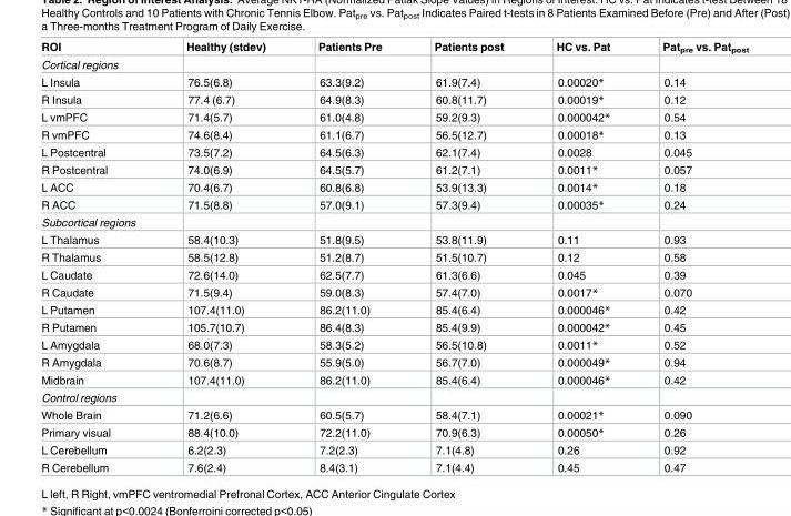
<table><thead><tr><td>ROI</td><td>Healthy (stdev)</td><td>Patients Pre</td><td>Patients post</td><td>HC vs. Pat</td><td>Pat<sub>pre</sub> vs. Pat<sub>post</sub></td></tr></thead><tbody><tr><td colspan="6">Cortical regions</td></tr><tr><td>L Insula</td><td>76.5(6.8)</td><td>63.3(9.2)</td><td>61.9(7.4)</td><td>0.00020*</td><td>0.14</td></tr><tr><td>R Insula</td><td>77.4 (6.7)</td><td>64.9(8.3)</td><td>60.8(11.7)</td><td>0.00019*</td><td>0.12</td></tr><tr><td>L vmPFC</td><td>71.4(5.7)</td><td>61.0(4.8)</td><td>59.2(9.3)</td><td>0.000042*</td><td>0.54</td></tr><tr><td>R vmPFC</td><td>74.6(8.4)</td><td>61.1(6.7)</td><td>56.5(12.7)</td><td>0.00018*</td><td>0.13</td></tr><tr><td>L Postcentral</td><td>73.5(7.2)</td><td>64.5(6.3)</td><td>62.1(7.4)</td><td>0.0028</td><td>0.045</td></tr><tr><td>R Postcentral</td><td>74.0(6.9)</td><td>64.5(5.7)</td><td>61.2(7.1)</td><td>0.0011*</td><td>0.057</td></tr><tr><td>L ACC</td><td>70.4(6.7)</td><td>60.8(6.8)</td><td>53.9(13.3)</td><td>0.0014*</td><td>0.18</td></tr><tr><td>R ACC</td><td>71.5(8.8)</td><td>57.0(9.1)</td><td>57.3(9.4)</td><td>0.00035*</td><td>0.24</td></tr><tr><td colspan="6">Subcortical regions</td></tr><tr><td>L Thalamus</td><td>58.4(10.3)</td><td>51.8(9.5)</td><td>53.8(11.9)</td><td>0.11</td><td>0.93</td></tr><tr><td>R Thalamus</td><td>58.5(12.8)</td><td>51.2(8.7)</td><td>51.5(10.7)</td><td>0.12</td><td>0.58</td></tr><tr><td>L Caudate</td><td>72.6(14.0)</td><td>62.5(7.7)</td><td>61.3(6.6)</td><td>0.045</td><td>0.39</td></tr><tr><td>R Caudate</td><td>71.5(9.4)</td><td>59.0(8.3)</td><td>57.4(7.0)</td><td>0.0017*</td><td>0.070</td></tr><tr><td>L Putamen</td><td>107.4(11.0)</td><td>86.2(11.0)</td><td>85.4(6.4)</td><td>0.000046*</td><td>0.42</td></tr><tr><td>R Putamen</td><td>105.7(10.7)</td><td>86.4(8.3)</td><td>85.4(9.9)</td><td>0.000042*</td><td>0.45</td></tr><tr><td>L Amygdala</td><td>68.0(7.3)</td><td>58.3(5.2)</td><td>56.5(10.8)</td><td>0.0011*</td><td>0.52</td></tr><tr><td>R Amygdala</td><td>70.6(8.7)</td><td>55.9(5.0)</td><td>56.7(7.0)</td><td>0.000049*</td><td>0.94</td></tr><tr><td>Midbrain</td><td>107.4(11.0)</td><td>86.2(11.0)</td><td>85.4(6.4)</td><td>0.000046*</td><td>0.42</td></tr><tr><td colspan="6">Control regions</td></tr><tr><td>Whole Brain</td><td>71.2(6.6)</td><td>60.5(5.7)</td><td>58.4(7.1)</td><td>0.00021*</td><td>0.090</td></tr><tr><td>Primary visual</td><td>88.4(10.0)</td><td>72.2(11.0)</td><td>70.9(6.3)</td><td>0.00050*</td><td>0.26</td></tr><tr><td>L Cerebellum</td><td>6.2(2.3)</td><td>7.2(2.3)</td><td>7.1(4.8)</td><td>0.26</td><td>0.92</td></tr><tr><td>R Cerebellum</td><td>7.6(2.4)</td><td>8.4(3.1)</td><td>7.1(4.4)</td><td>0.45</td><td>0.47</td></tr></tbody></table>